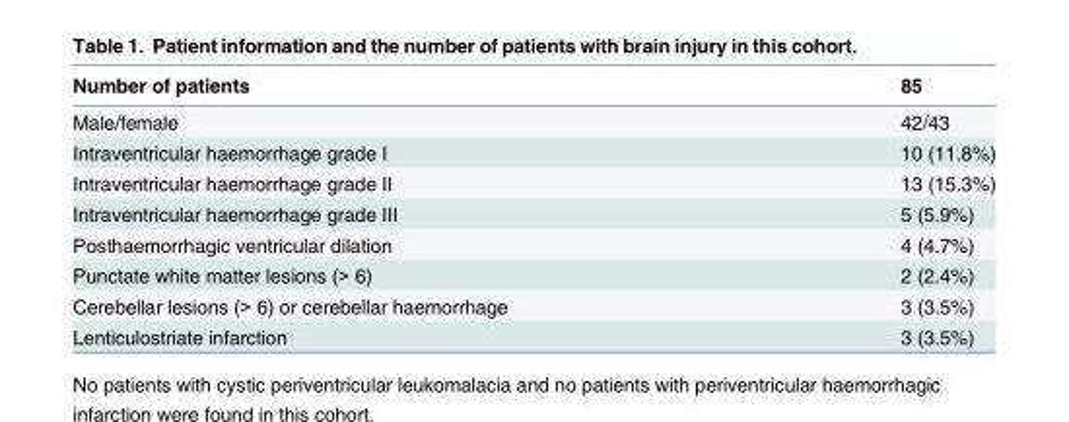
<table><thead><tr><td>Number of patients</td><td>85</td></tr></thead><tbody><tr><td>Male/female</td><td>42/43</td></tr><tr><td>Intraventricular haemorrhage grade I</td><td>10 (11.8%)</td></tr><tr><td>Intraventricular haemorrhage grade II</td><td>13 (15.3%)</td></tr><tr><td>Intraventricular haemorrhage grade III</td><td>5 (5.9%)</td></tr><tr><td>Posthaemorrhagic ventricular dilation</td><td>4 (4.7%)</td></tr><tr><td>Punctate white matter lesions (&gt; 6)</td><td>2 (2.4%)</td></tr><tr><td>Cerebellar lesions (&gt; 6) or cerebellar haemorrhage</td><td>3 (3.5%)</td></tr><tr><td>Lenticulostriate infarction</td><td>3 (3.5%)</td></tr></tbody></table>